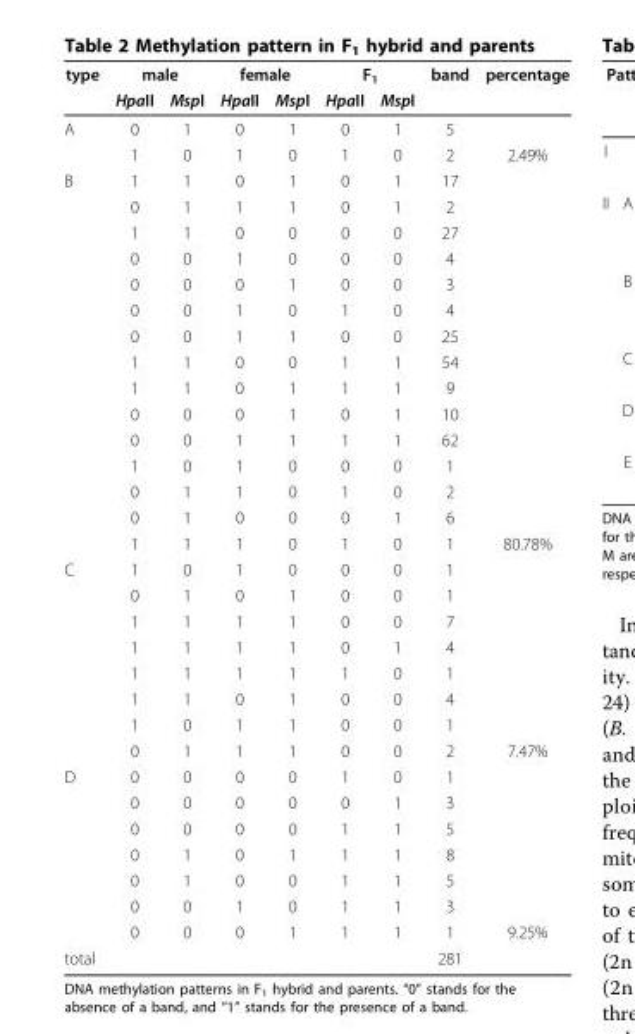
<table><thead><tr><td rowspan="2">type</td><td colspan="2">male</td><td colspan="2">female</td><td colspan="2">F<sub>1</sub></td><td rowspan="2">band</td><td rowspan="2">percentage</td></tr><tr><td>HpaII</td><td>MspI</td><td>HpaII</td><td>MspI</td><td>HpaII</td><td>MspI</td></tr></thead><tbody><tr><td rowspan="2">A</td><td>0</td><td>1</td><td>0</td><td>1</td><td>0</td><td>1</td><td>5</td><td></td></tr><tr><td>1</td><td>0</td><td>1</td><td>0</td><td>1</td><td>0</td><td>2</td><td>2.49%</td></tr><tr><td rowspan="15">B</td><td>1</td><td>1</td><td>0</td><td>1</td><td>0</td><td>1</td><td>17</td><td></td></tr><tr><td>0</td><td>1</td><td>1</td><td>1</td><td>0</td><td>1</td><td>2</td><td></td></tr><tr><td>1</td><td>1</td><td>0</td><td>0</td><td>0</td><td>0</td><td>27</td><td></td></tr><tr><td>0</td><td>0</td><td>1</td><td>0</td><td>0</td><td>0</td><td>4</td><td></td></tr><tr><td>0</td><td>0</td><td>0</td><td>1</td><td>0</td><td>0</td><td>3</td><td></td></tr><tr><td>0</td><td>0</td><td>1</td><td>0</td><td>1</td><td>0</td><td>4</td><td></td></tr><tr><td>0</td><td>0</td><td>1</td><td>1</td><td>0</td><td>0</td><td>25</td><td></td></tr><tr><td>1</td><td>1</td><td>0</td><td>0</td><td>1</td><td>1</td><td>54</td><td></td></tr><tr><td>1</td><td>1</td><td>0</td><td>1</td><td>1</td><td>1</td><td>9</td><td></td></tr><tr><td>0</td><td>0</td><td>0</td><td>1</td><td>0</td><td>1</td><td>10</td><td></td></tr><tr><td>0</td><td>0</td><td>1</td><td>1</td><td>1</td><td>1</td><td>62</td><td></td></tr><tr><td>1</td><td>0</td><td>1</td><td>0</td><td>0</td><td>0</td><td>1</td><td></td></tr><tr><td>0</td><td>1</td><td>1</td><td>0</td><td>1</td><td>0</td><td>2</td><td></td></tr><tr><td>0</td><td>1</td><td>0</td><td>0</td><td>0</td><td>1</td><td>6</td><td></td></tr><tr><td>1</td><td>1</td><td>1</td><td>0</td><td>1</td><td>0</td><td>1</td><td>80.78%</td></tr><tr><td rowspan="8">C</td><td>1</td><td>0</td><td>1</td><td>0</td><td>0</td><td>0</td><td>1</td><td></td></tr><tr><td>0</td><td>1</td><td>0</td><td>1</td><td>0</td><td>0</td><td>1</td><td></td></tr><tr><td>1</td><td>1</td><td>1</td><td>1</td><td>0</td><td>0</td><td>7</td><td></td></tr><tr><td>1</td><td>1</td><td>1</td><td>1</td><td>0</td><td>1</td><td>4</td><td></td></tr><tr><td>1</td><td>1</td><td>1</td><td>1</td><td>1</td><td>0</td><td>1</td><td></td></tr><tr><td>1</td><td>1</td><td>0</td><td>1</td><td>0</td><td>0</td><td>4</td><td></td></tr><tr><td>1</td><td>0</td><td>1</td><td>1</td><td>0</td><td>0</td><td>1</td><td></td></tr><tr><td>0</td><td>1</td><td>1</td><td>1</td><td>0</td><td>0</td><td>2</td><td>7.47%</td></tr><tr><td rowspan="7">D</td><td>0</td><td>0</td><td>0</td><td>0</td><td>1</td><td>0</td><td>1</td><td></td></tr><tr><td>0</td><td>0</td><td>0</td><td>0</td><td>0</td><td>1</td><td>3</td><td></td></tr><tr><td>0</td><td>0</td><td>0</td><td>0</td><td>1</td><td>1</td><td>5</td><td></td></tr><tr><td>0</td><td>1</td><td>0</td><td>1</td><td>1</td><td>1</td><td>8</td><td></td></tr><tr><td>0</td><td>1</td><td>0</td><td>0</td><td>1</td><td>1</td><td>5</td><td></td></tr><tr><td>0</td><td>0</td><td>1</td><td>0</td><td>1</td><td>1</td><td>3</td><td></td></tr><tr><td>0</td><td>0</td><td>0</td><td>1</td><td>1</td><td>1</td><td>1</td><td>9.25%</td></tr><tr><td>total</td><td></td><td></td><td></td><td></td><td></td><td></td><td>281</td><td></td></tr></tbody></table>